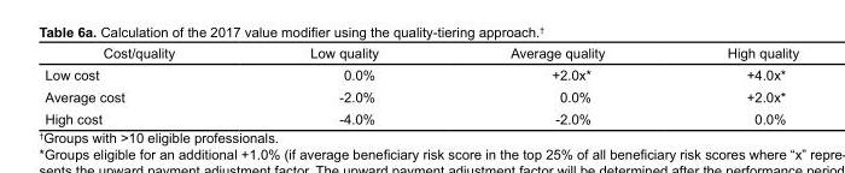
<table><thead><tr><td>Cost/quality</td><td>Low quality</td><td>Average quality</td><td>High quality</td></tr></thead><tbody><tr><td>Low cost</td><td>0.0%</td><td>+2.0x*</td><td>+4.0x*</td></tr><tr><td>Average cost</td><td>-2.0%</td><td>0.0%</td><td>+2.0x*</td></tr><tr><td>High cost</td><td>-4.0%</td><td>-2.0%</td><td>0.0%</td></tr></tbody></table>